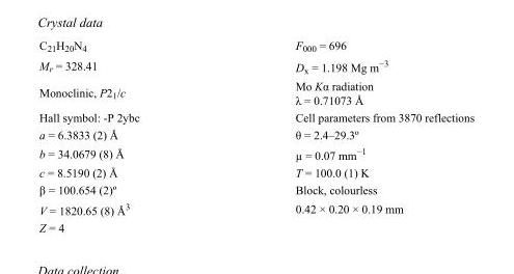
<table><tbody><tr><td>C<sub>21</sub>H<sub>20</sub>N<sub>4</sub></td><td>F<sub>000</sub> = 696</td></tr><tr><td>M<sub>r</sub> = 328.41</td><td>D<sub>x</sub> = 1.198 Mg m<sup>−3</sup></td></tr><tr><td>Monoclinic, P2<sub>1</sub>/c</td><td>Mo Kα radiation λ = 0.71073 Å</td></tr><tr><td>Hall symbol: -P 2ybc</td><td>Cell parameters from 3870 reflections</td></tr><tr><td>a = 6.3833 (2) Å</td><td>θ = 2.4–29.3º</td></tr><tr><td>b = 34.0679 (8) Å</td><td>µ = 0.07 mm<sup>−1</sup></td></tr><tr><td>c = 8.5190 (2) Å</td><td>T = 100.0 (1) K</td></tr><tr><td>β = 100.654 (2)º</td><td>Block, colourless</td></tr><tr><td>V = 1820.65 (8) Å<sup>3</sup></td><td>0.42 × 0.20 × 0.19 mm</td></tr><tr><td>Z = 4</td><td></td></tr></tbody></table>